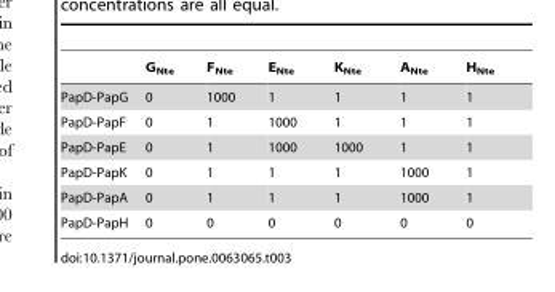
<table><thead><tr><td></td><td>G<sub>Nte</sub></td><td>F<sub>Nte</sub></td><td>E<sub>Nte</sub></td><td>K<sub>Nte</sub></td><td>A<sub>Nte</sub></td><td>H<sub>Nte</sub></td></tr></thead><tbody><tr><td>PapD-PapG</td><td>0</td><td>1000</td><td>1</td><td>1</td><td>1</td><td>1</td></tr><tr><td>PapD-PapF</td><td>0</td><td>1</td><td>1000</td><td>1</td><td>1</td><td>1</td></tr><tr><td>PapD-PapE</td><td>0</td><td>1</td><td>1000</td><td>1000</td><td>1</td><td>1</td></tr><tr><td>PapD-PapK</td><td>0</td><td>1</td><td>1</td><td>1</td><td>1000</td><td>1</td></tr><tr><td>PapD-PapA</td><td>0</td><td>1</td><td>1</td><td>1</td><td>1000</td><td>1</td></tr><tr><td>PapD-PapH</td><td>0</td><td>0</td><td>0</td><td>0</td><td>0</td><td>0</td></tr></tbody></table>